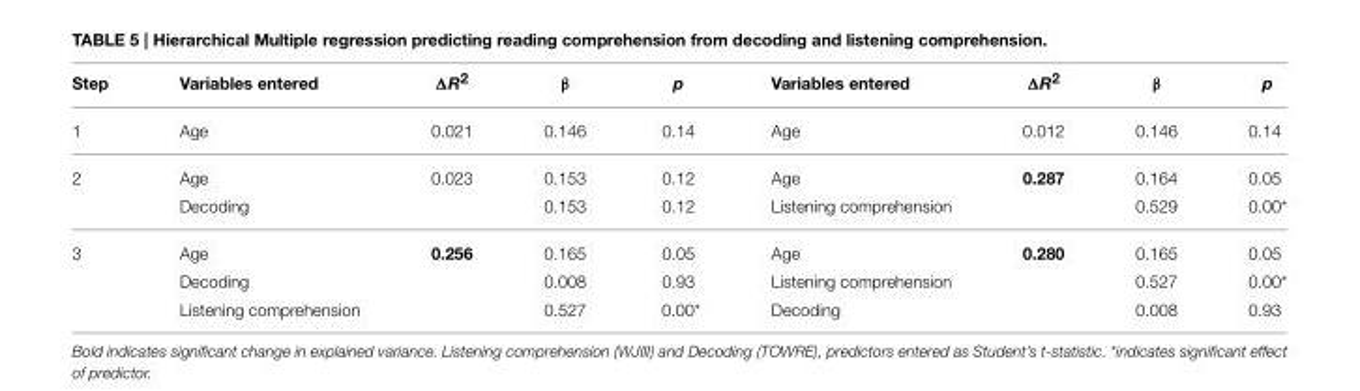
<table><thead><tr><td>Step</td><td>Variables entered</td><td>ΔR<sup>2</sup></td><td>β</td><td>p</td><td>Variables entered</td><td>ΔR<sup>2</sup></td><td>β</td><td>p</td></tr></thead><tbody><tr><td>1</td><td>Age</td><td>0.021</td><td>0.146</td><td>0.14</td><td>Age</td><td>0.012</td><td>0.146</td><td>0.14</td></tr><tr><td rowspan="2">2</td><td>Age</td><td>0.023</td><td>0.153</td><td>0.12</td><td>Age</td><td>0.287</td><td>0.164</td><td>0.05</td></tr><tr><td>Decoding</td><td></td><td>0.153</td><td>0.12</td><td>Listening comprehension</td><td></td><td>0.529</td><td>0.00*</td></tr><tr><td rowspan="3">3</td><td>Age</td><td>0.256</td><td>0.165</td><td>0.05</td><td>Age</td><td>0.280</td><td>0.165</td><td>0.05</td></tr><tr><td>Decoding</td><td></td><td>0.008</td><td>0.93</td><td>Listening comprehension</td><td></td><td>0.527</td><td>0.00*</td></tr><tr><td>Listening comprehension</td><td></td><td>0.527</td><td>0.00*</td><td>Decoding</td><td></td><td>0.008</td><td>0.93</td></tr></tbody></table>